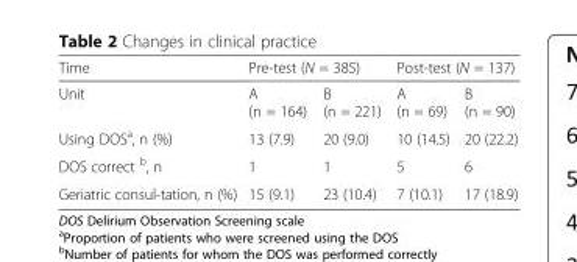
<table><thead><tr><td rowspan="2">Time Unit</td><td colspan="2">Pre-test (N = 385)</td><td colspan="2">Post-test (N = 137)</td></tr><tr><td>A (n = 164)</td><td>B (n = 221)</td><td>A (n = 69)</td><td>B (n = 90)</td></tr></thead><tbody><tr><td>Using DOS<sup>a</sup>, n (%)</td><td>13 (7.9)</td><td>20 (9.0)</td><td>10 (14.5)</td><td>20 (22.2)</td></tr><tr><td>DOS correct <sup>b</sup>, n</td><td>1</td><td>1</td><td>5</td><td>6</td></tr><tr><td>Geriatric consul-tation, n (%)</td><td>15 (9.1)</td><td>23 (10.4)</td><td>7 (10.1)</td><td>17 (18.9)</td></tr></tbody></table>